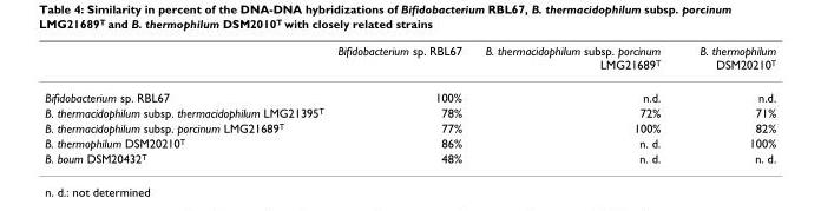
<table><thead><tr><td></td><td>Bifidobacterium sp. RBL67</td><td>B. thermacidophilum subsp. porcinum LMG21689<sup>T</sup></td><td>B. thermophilum DSM20210<sup>T</sup></td></tr></thead><tbody><tr><td>Bifidobacterium sp. RBL67</td><td>100%</td><td>n.d.</td><td>n.d.</td></tr><tr><td>B. thermacidophilum subsp. thermacidophilum LMG21395<sup>T</sup></td><td>78%</td><td>72%</td><td>71%</td></tr><tr><td>B. thermacidophilum subsp. porcinum LMG21689<sup>T</sup></td><td>77%</td><td>100%</td><td>82%</td></tr><tr><td>B. thermophilum DSM20210<sup>T</sup></td><td>86%</td><td>n. d.</td><td>100%</td></tr><tr><td>B. boum DSM20432<sup>T</sup></td><td>48%</td><td>n. d.</td><td>n. d.</td></tr></tbody></table>